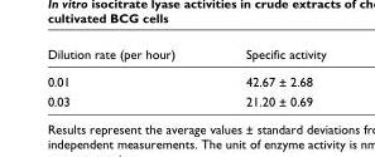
<table><thead><tr><td>Dilution rate (per hour)</td><td>Specific activity</td></tr></thead><tbody><tr><td>0.01</td><td>42.67 ± 2.68</td></tr><tr><td>0.03</td><td>21.20 ± 0.69</td></tr></tbody></table>